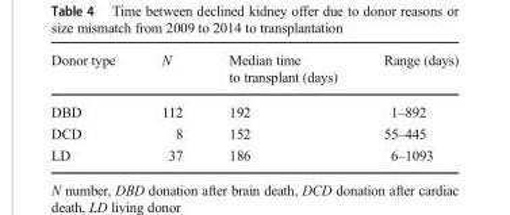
<table><thead><tr><td>Donor type</td><td>N</td><td>Median time to transplant (days)</td><td>Range (days)</td></tr></thead><tbody><tr><td>DBD</td><td>112</td><td>192</td><td>1–892</td></tr><tr><td>DCD</td><td>8</td><td>152</td><td>55–445</td></tr><tr><td>LD</td><td>37</td><td>186</td><td>6–1093</td></tr></tbody></table>